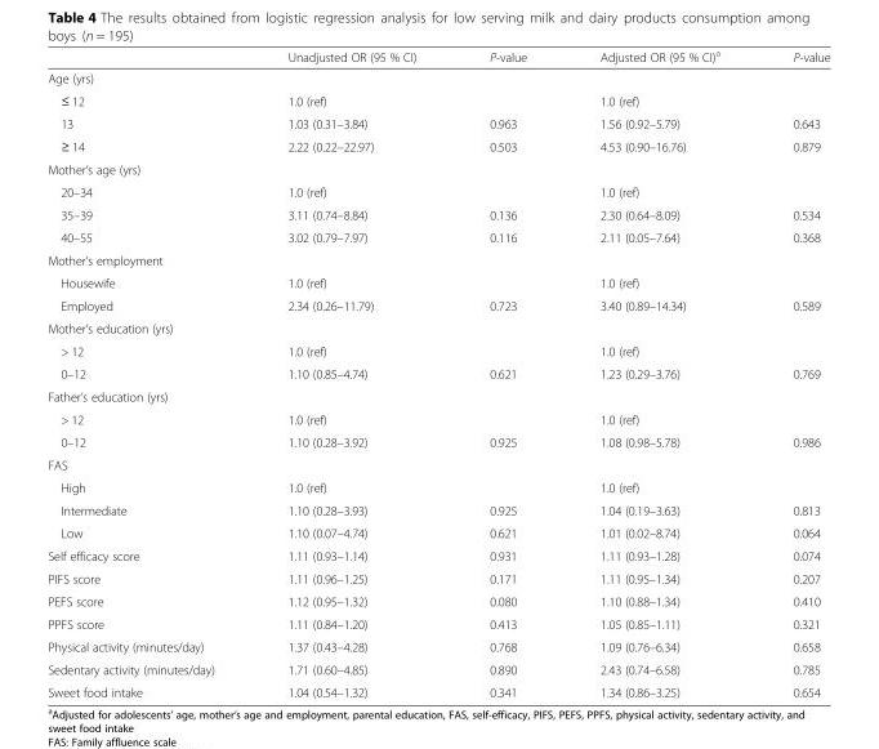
<table><thead><tr><td></td><td>Unadjusted OR (95 % CI)</td><td>P-value</td><td>Adjusted OR (95 % CI)<sup>a</sup></td><td>P-value</td></tr></thead><tbody><tr><td colspan="5">Age (yrs)</td></tr><tr><td>≤ 12</td><td>1.0 (ref)</td><td></td><td>1.0 (ref)</td><td></td></tr><tr><td>13</td><td>1.03 (0.31–3.84)</td><td>0.963</td><td>1.56 (0.92–5.79)</td><td>0.643</td></tr><tr><td>≥ 14</td><td>2.22 (0.22–22.97)</td><td>0.503</td><td>4.53 (0.90–16.76)</td><td>0.879</td></tr><tr><td colspan="5">Mother’s age (yrs)</td></tr><tr><td>20–34</td><td>1.0 (ref)</td><td></td><td>1.0 (ref)</td><td></td></tr><tr><td>35–39</td><td>3.11 (0.74–8.84)</td><td>0.136</td><td>2.30 (0.64–8.09)</td><td>0.534</td></tr><tr><td>40–55</td><td>3.02 (0.79–7.97)</td><td>0.116</td><td>2.11 (0.05–7.64)</td><td>0.368</td></tr><tr><td colspan="5">Mother’s employment</td></tr><tr><td>Housewife</td><td>1.0 (ref)</td><td></td><td>1.0 (ref)</td><td></td></tr><tr><td>Employed</td><td>2.34 (0.26–11.79)</td><td>0.723</td><td>3.40 (0.89–14.34)</td><td>0.589</td></tr><tr><td colspan="5">Mother’s education (yrs)</td></tr><tr><td>&gt; 12</td><td>1.0 (ref)</td><td></td><td>1.0 (ref)</td><td></td></tr><tr><td>0–12</td><td>1.10 (0.85–4.74)</td><td>0.621</td><td>1.23 (0.29–3.76)</td><td>0.769</td></tr><tr><td colspan="5">Father’s education (yrs)</td></tr><tr><td>&gt; 12</td><td>1.0 (ref)</td><td></td><td>1.0 (ref)</td><td></td></tr><tr><td>0–12</td><td>1.10 (0.28–3.92)</td><td>0.925</td><td>1.08 (0.98–5.78)</td><td>0.986</td></tr><tr><td colspan="5">FAS</td></tr><tr><td>High</td><td>1.0 (ref)</td><td></td><td>1.0 (ref)</td><td></td></tr><tr><td>Intermediate</td><td>1.10 (0.28–3.93)</td><td>0.925</td><td>1.04 (0.19–3.63)</td><td>0.813</td></tr><tr><td>Low</td><td>1.10 (0.07–4.74)</td><td>0.621</td><td>1.01 (0.02–8.74)</td><td>0.064</td></tr><tr><td>Self efficacy score</td><td>1.11 (0.93–1.14)</td><td>0.931</td><td>1.11 (0.93–1.28)</td><td>0.074</td></tr><tr><td>PIFS score</td><td>1.11 (0.96–1.25)</td><td>0.171</td><td>1.11 (0.95–1.34)</td><td>0.207</td></tr><tr><td>PEFS score</td><td>1.12 (0.95–1.32)</td><td>0.080</td><td>1.10 (0.88–1.34)</td><td>0.410</td></tr><tr><td>PPFS score</td><td>1.11 (0.84–1.20)</td><td>0.413</td><td>1.05 (0.85–1.11)</td><td>0.321</td></tr><tr><td>Physical activity (minutes/day)</td><td>1.37 (0.43–4.28)</td><td>0.768</td><td>1.09 (0.76–6.34)</td><td>0.658</td></tr><tr><td>Sedentary activity (minutes/day)</td><td>1.71 (0.60–4.85)</td><td>0.890</td><td>2.43 (0.74–6.58)</td><td>0.785</td></tr><tr><td>Sweet food intake</td><td>1.04 (0.54–1.32)</td><td>0.341</td><td>1.34 (0.86–3.25)</td><td>0.654</td></tr></tbody></table>